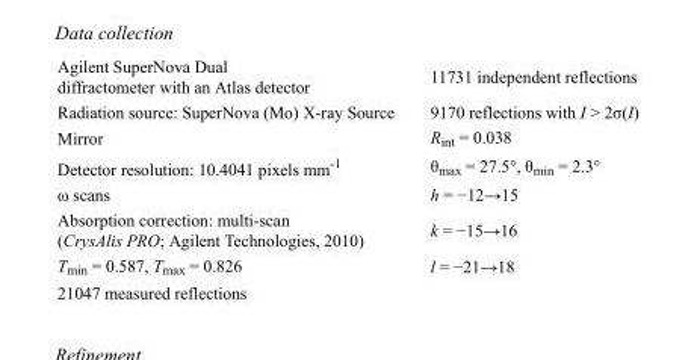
<table><tbody><tr><td>Agilent SuperNova Dual diffractometer with an Atlas detector</td><td>11731 independent reflections</td></tr><tr><td>Radiation source: SuperNova (Mo) X-ray Source</td><td>9170 reflections with I &gt; 2σ(I)</td></tr><tr><td>Mirror</td><td>R<sub>int</sub> = 0.038</td></tr><tr><td>Detector resolution: 10.4041 pixels mm<sup>-1</sup></td><td>θ<sub>max</sub> = 27.5°, θ<sub>min</sub> = 2.3°</td></tr><tr><td>ω scans</td><td>h = −12→15</td></tr><tr><td>Absorption correction: multi-scan (CrysAlis PRO; Agilent Technologies, 2010)</td><td>k = −15→16</td></tr><tr><td>T<sub>min</sub> = 0.587, T<sub>max</sub> = 0.826</td><td>l = −21→18</td></tr><tr><td>21047 measured reflections</td><td></td></tr></tbody></table>